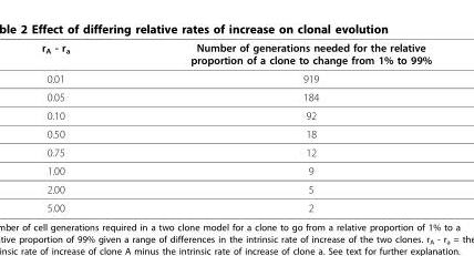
<table><thead><tr><td>r<sub>A</sub> - r<sub>a</sub></td><td>Number of generations needed for the relative proportion of a clone to change from 1% to 99%</td></tr></thead><tbody><tr><td>0.01</td><td>919</td></tr><tr><td>0.05</td><td>184</td></tr><tr><td>0.10</td><td>92</td></tr><tr><td>0.50</td><td>18</td></tr><tr><td>0.75</td><td>12</td></tr><tr><td>1.00</td><td>9</td></tr><tr><td>2.00</td><td>5</td></tr><tr><td>5.00</td><td>2</td></tr></tbody></table>